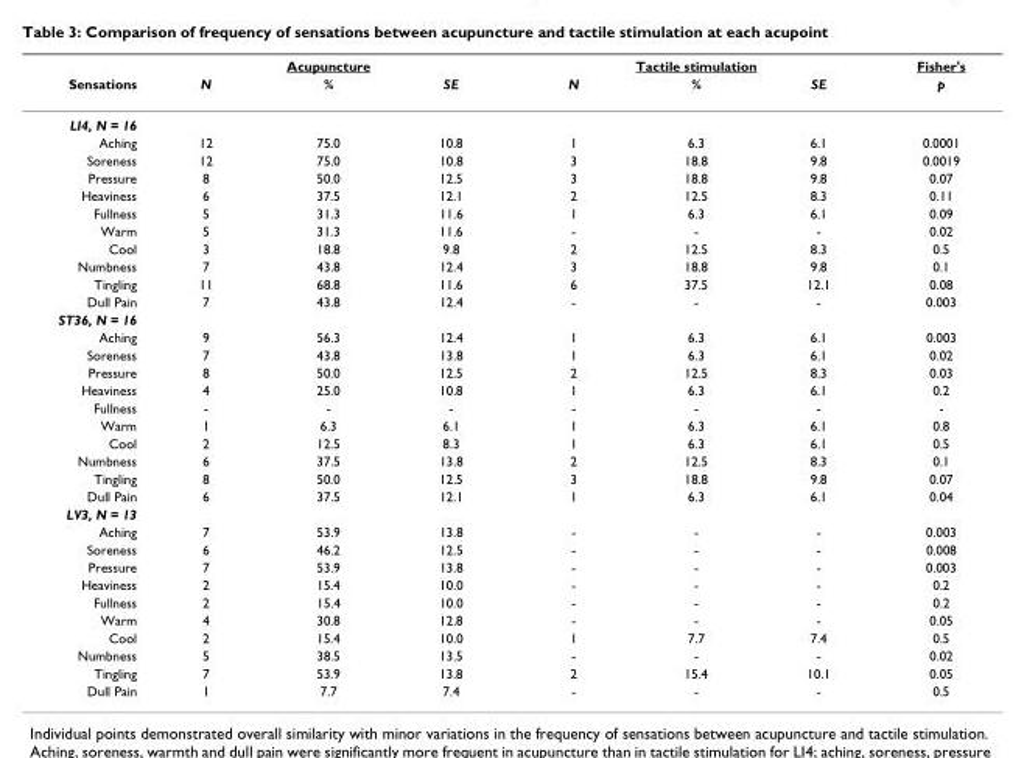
<table><thead><tr><td rowspan="2">Sensations</td><td colspan="3">Acupuncture</td><td colspan="3">Tactile stimulation</td><td rowspan="2">Fisher&#x27;s p</td></tr><tr><td>N</td><td>%</td><td>SE</td><td>N</td><td>%</td><td>SE</td></tr></thead><tbody><tr><td colspan="8">LI4, N = 16</td></tr><tr><td>Aching</td><td>12</td><td>75.0</td><td>10.8</td><td>1</td><td>6.3</td><td>6.1</td><td>0.0001</td></tr><tr><td>Soreness</td><td>12</td><td>75.0</td><td>10.8</td><td>3</td><td>18.8</td><td>9.8</td><td>0.0019</td></tr><tr><td>Pressure</td><td>8</td><td>50.0</td><td>12.5</td><td>3</td><td>18.8</td><td>9.8</td><td>0.07</td></tr><tr><td>Heaviness</td><td>6</td><td>37.5</td><td>12.1</td><td>2</td><td>12.5</td><td>8.3</td><td>0.11</td></tr><tr><td>Fullness</td><td>5</td><td>31.3</td><td>11.6</td><td>1</td><td>6.3</td><td>6.1</td><td>0.09</td></tr><tr><td>Warm</td><td>5</td><td>31.3</td><td>11.6</td><td>-</td><td>-</td><td>-</td><td>0.02</td></tr><tr><td>Cool</td><td>3</td><td>18.8</td><td>9.8</td><td>2</td><td>12.5</td><td>8.3</td><td>0.5</td></tr><tr><td>Numbness</td><td>7</td><td>43.8</td><td>12.4</td><td>3</td><td>18.8</td><td>9.8</td><td>0.1</td></tr><tr><td>Tingling</td><td>11</td><td>68.8</td><td>11.6</td><td>6</td><td>37.5</td><td>12.1</td><td>0.08</td></tr><tr><td>Dull Pain</td><td>7</td><td>43.8</td><td>12.4</td><td>-</td><td>-</td><td>-</td><td>0.003</td></tr><tr><td colspan="8">ST36, N = 16</td></tr><tr><td>Aching</td><td>9</td><td>56.3</td><td>12.4</td><td>1</td><td>6.3</td><td>6.1</td><td>0.003</td></tr><tr><td>Soreness</td><td>7</td><td>43.8</td><td>13.8</td><td>1</td><td>6.3</td><td>6.1</td><td>0.02</td></tr><tr><td>Pressure</td><td>8</td><td>50.0</td><td>12.5</td><td>2</td><td>12.5</td><td>8.3</td><td>0.03</td></tr><tr><td>Heaviness</td><td>4</td><td>25.0</td><td>10.8</td><td>1</td><td>6.3</td><td>6.1</td><td>0.2</td></tr><tr><td>Fullness</td><td>-</td><td>-</td><td>-</td><td>-</td><td>-</td><td>-</td><td>-</td></tr><tr><td>Warm</td><td>1</td><td>6.3</td><td>6.1</td><td>1</td><td>6.3</td><td>6.1</td><td>0.8</td></tr><tr><td>Cool</td><td>2</td><td>12.5</td><td>8.3</td><td>1</td><td>6.3</td><td>6.1</td><td>0.5</td></tr><tr><td>Numbness</td><td>6</td><td>37.5</td><td>13.8</td><td>2</td><td>12.5</td><td>8.3</td><td>0.1</td></tr><tr><td>Tingling</td><td>8</td><td>50.0</td><td>12.5</td><td>3</td><td>18.8</td><td>9.8</td><td>0.07</td></tr><tr><td>Dull Pain</td><td>6</td><td>37.5</td><td>12.1</td><td>1</td><td>6.3</td><td>6.1</td><td>0.04</td></tr><tr><td colspan="8">LV3, N = 13</td></tr><tr><td>Aching</td><td>7</td><td>53.9</td><td>13.8</td><td>-</td><td>-</td><td>-</td><td>0.003</td></tr><tr><td>Soreness</td><td>6</td><td>46.2</td><td>12.5</td><td>-</td><td>-</td><td>-</td><td>0.008</td></tr><tr><td>Pressure</td><td>7</td><td>53.9</td><td>13.8</td><td>-</td><td>-</td><td>-</td><td>0.003</td></tr><tr><td>Heaviness</td><td>2</td><td>15.4</td><td>10.0</td><td>-</td><td>-</td><td>-</td><td>0.2</td></tr><tr><td>Fullness</td><td>2</td><td>15.4</td><td>10.0</td><td>-</td><td>-</td><td>-</td><td>0.2</td></tr><tr><td>Warm</td><td>4</td><td>30.8</td><td>12.8</td><td>-</td><td>-</td><td>-</td><td>0.05</td></tr><tr><td>Cool</td><td>2</td><td>15.4</td><td>10.0</td><td>1</td><td>7.7</td><td>7.4</td><td>0.5</td></tr><tr><td>Numbness</td><td>5</td><td>38.5</td><td>13.5</td><td>-</td><td>-</td><td>-</td><td>0.02</td></tr><tr><td>Tingling</td><td>7</td><td>53.9</td><td>13.8</td><td>2</td><td>15.4</td><td>10.1</td><td>0.05</td></tr><tr><td>Dull Pain</td><td>1</td><td>7.7</td><td>7.4</td><td>-</td><td>-</td><td>-</td><td>0.5</td></tr></tbody></table>